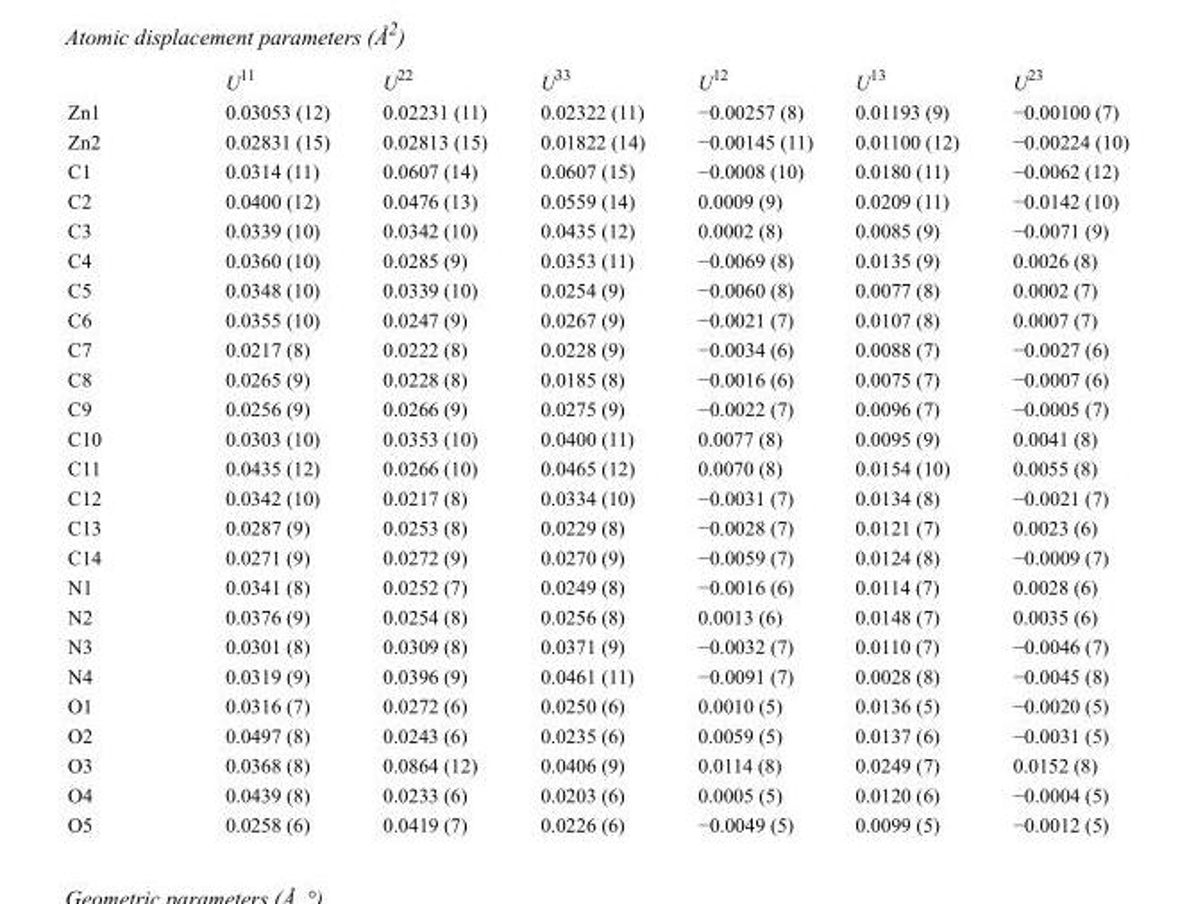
<table><thead><tr><td></td><td>U<sup>11</sup></td><td>U<sup>22</sup></td><td>U<sup>33</sup></td><td>U<sup>12</sup></td><td>U<sup>13</sup></td><td>U<sup>23</sup></td></tr></thead><tbody><tr><td>Zn1</td><td>0.03053 (12)</td><td>0.02231 (11)</td><td>0.02322 (11)</td><td>−0.00257 (8)</td><td>0.01193 (9)</td><td>−0.00100 (7)</td></tr><tr><td>Zn2</td><td>0.02831 (15)</td><td>0.02813 (15)</td><td>0.01822 (14)</td><td>−0.00145 (11)</td><td>0.01100 (12)</td><td>−0.00224 (10)</td></tr><tr><td>C1</td><td>0.0314 (11)</td><td>0.0607 (14)</td><td>0.0607 (15)</td><td>−0.0008 (10)</td><td>0.0180 (11)</td><td>−0.0062 (12)</td></tr><tr><td>C2</td><td>0.0400 (12)</td><td>0.0476 (13)</td><td>0.0559 (14)</td><td>0.0009 (9)</td><td>0.0209 (11)</td><td>−0.0142 (10)</td></tr><tr><td>C3</td><td>0.0339 (10)</td><td>0.0342 (10)</td><td>0.0435 (12)</td><td>0.0002 (8)</td><td>0.0085 (9)</td><td>−0.0071 (9)</td></tr><tr><td>C4</td><td>0.0360 (10)</td><td>0.0285 (9)</td><td>0.0353 (11)</td><td>−0.0069 (8)</td><td>0.0135 (9)</td><td>0.0026 (8)</td></tr><tr><td>C5</td><td>0.0348 (10)</td><td>0.0339 (10)</td><td>0.0254 (9)</td><td>−0.0060 (8)</td><td>0.0077 (8)</td><td>0.0002 (7)</td></tr><tr><td>C6</td><td>0.0355 (10)</td><td>0.0247 (9)</td><td>0.0267 (9)</td><td>−0.0021 (7)</td><td>0.0107 (8)</td><td>0.0007 (7)</td></tr><tr><td>C7</td><td>0.0217 (8)</td><td>0.0222 (8)</td><td>0.0228 (9)</td><td>−0.0034 (6)</td><td>0.0088 (7)</td><td>−0.0027 (6)</td></tr><tr><td>C8</td><td>0.0265 (9)</td><td>0.0228 (8)</td><td>0.0185 (8)</td><td>−0.0016 (6)</td><td>0.0075 (7)</td><td>−0.0007 (6)</td></tr><tr><td>C9</td><td>0.0256 (9)</td><td>0.0266 (9)</td><td>0.0275 (9)</td><td>−0.0022 (7)</td><td>0.0096 (7)</td><td>−0.0005 (7)</td></tr><tr><td>C10</td><td>0.0303 (10)</td><td>0.0353 (10)</td><td>0.0400 (11)</td><td>0.0077 (8)</td><td>0.0095 (9)</td><td>0.0041 (8)</td></tr><tr><td>C11</td><td>0.0435 (12)</td><td>0.0266 (10)</td><td>0.0465 (12)</td><td>0.0070 (8)</td><td>0.0154 (10)</td><td>0.0055 (8)</td></tr><tr><td>C12</td><td>0.0342 (10)</td><td>0.0217 (8)</td><td>0.0334 (10)</td><td>−0.0031 (7)</td><td>0.0134 (8)</td><td>−0.0021 (7)</td></tr><tr><td>C13</td><td>0.0287 (9)</td><td>0.0253 (8)</td><td>0.0229 (8)</td><td>−0.0028 (7)</td><td>0.0121 (7)</td><td>0.0023 (6)</td></tr><tr><td>C14</td><td>0.0271 (9)</td><td>0.0272 (9)</td><td>0.0270 (9)</td><td>−0.0059 (7)</td><td>0.0124 (8)</td><td>−0.0009 (7)</td></tr><tr><td>N1</td><td>0.0341 (8)</td><td>0.0252 (7)</td><td>0.0249 (8)</td><td>−0.0016 (6)</td><td>0.0114 (7)</td><td>0.0028 (6)</td></tr><tr><td>N2</td><td>0.0376 (9)</td><td>0.0254 (8)</td><td>0.0256 (8)</td><td>0.0013 (6)</td><td>0.0148 (7)</td><td>0.0035 (6)</td></tr><tr><td>N3</td><td>0.0301 (8)</td><td>0.0309 (8)</td><td>0.0371 (9)</td><td>−0.0032 (7)</td><td>0.0110 (7)</td><td>−0.0046 (7)</td></tr><tr><td>N4</td><td>0.0319 (9)</td><td>0.0396 (9)</td><td>0.0461 (11)</td><td>−0.0091 (7)</td><td>0.0028 (8)</td><td>−0.0045 (8)</td></tr><tr><td>O1</td><td>0.0316 (7)</td><td>0.0272 (6)</td><td>0.0250 (6)</td><td>0.0010 (5)</td><td>0.0136 (5)</td><td>−0.0020 (5)</td></tr><tr><td>O2</td><td>0.0497 (8)</td><td>0.0243 (6)</td><td>0.0235 (6)</td><td>0.0059 (5)</td><td>0.0137 (6)</td><td>−0.0031 (5)</td></tr><tr><td>O3</td><td>0.0368 (8)</td><td>0.0864 (12)</td><td>0.0406 (9)</td><td>0.0114 (8)</td><td>0.0249 (7)</td><td>0.0152 (8)</td></tr><tr><td>O4</td><td>0.0439 (8)</td><td>0.0233 (6)</td><td>0.0203 (6)</td><td>0.0005 (5)</td><td>0.0120 (6)</td><td>−0.0004 (5)</td></tr><tr><td>O5</td><td>0.0258 (6)</td><td>0.0419 (7)</td><td>0.0226 (6)</td><td>−0.0049 (5)</td><td>0.0099 (5)</td><td>−0.0012 (5)</td></tr></tbody></table>